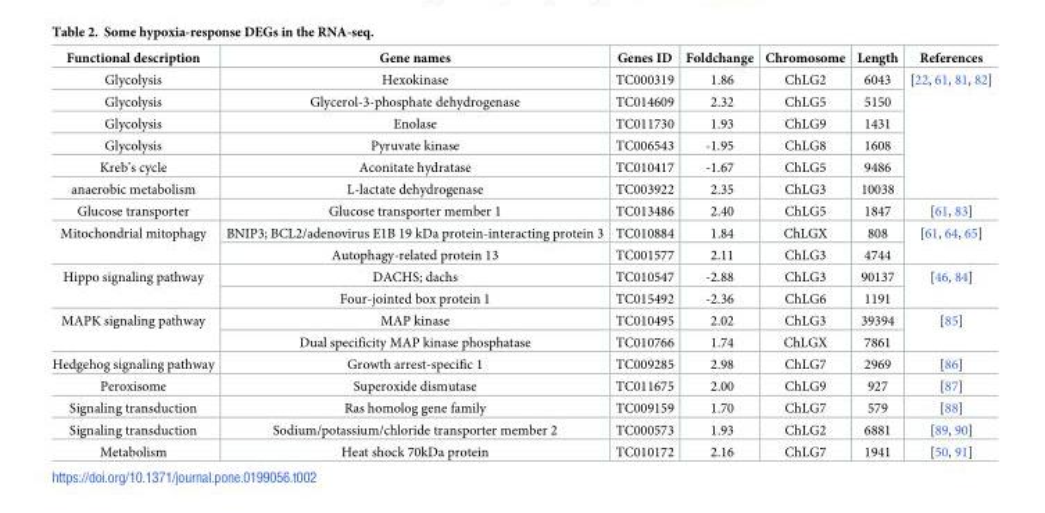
<table><thead><tr><td>Functional description</td><td>Gene names</td><td>Genes ID</td><td>Foldchange</td><td>Chromosome</td><td>Length</td><td>References</td></tr></thead><tbody><tr><td>Glycolysis</td><td>Hexokinase</td><td>TC000319</td><td>1.86</td><td>ChLG2</td><td>6043</td><td rowspan="6">[22, 61, 81, 82]</td></tr><tr><td>Glycolysis</td><td>Glycerol-3-phosphate dehydrogenase</td><td>TC014609</td><td>2.32</td><td>ChLG5</td><td>5150</td></tr><tr><td>Glycolysis</td><td>Enolase</td><td>TC011730</td><td>1.93</td><td>ChLG9</td><td>1431</td></tr><tr><td>Glycolysis</td><td>Pyruvate kinase</td><td>TC006543</td><td>-1.95</td><td>ChLG8</td><td>1608</td></tr><tr><td>Kreb’s cycle</td><td>Aconitate hydratase</td><td>TC010417</td><td>-1.67</td><td>ChLG5</td><td>9486</td></tr><tr><td>anaerobic metabolism</td><td>L-lactate dehydrogenase</td><td>TC003922</td><td>2.35</td><td>ChLG3</td><td>10038</td></tr><tr><td>Glucose transporter</td><td>Glucose transporter member 1</td><td>TC013486</td><td>2.40</td><td>ChLG5</td><td>1847</td><td>[61, 83]</td></tr><tr><td rowspan="2">Mitochondrial mitophagy</td><td>BNIP3; BCL2/adenovirus E1B 19 kDa protein-interacting protein 3</td><td>TC010884</td><td>1.84</td><td>ChLGX</td><td>808</td><td rowspan="2">[61, 64, 65]</td></tr><tr><td>Autophagy-related protein 13</td><td>TC001577</td><td>2.11</td><td>ChLG3</td><td>4744</td></tr><tr><td rowspan="2">Hippo signaling pathway</td><td>DACHS; dachs</td><td>TC010547</td><td>-2.88</td><td>ChLG3</td><td>90137</td><td rowspan="2">[46, 84]</td></tr><tr><td>Four-jointed box protein 1</td><td>TC015492</td><td>-2.36</td><td>ChLG6</td><td>1191</td></tr><tr><td rowspan="2">MAPK signaling pathway</td><td>MAP kinase</td><td>TC010495</td><td>2.02</td><td>ChLG3</td><td>39394</td><td rowspan="2">[85]</td></tr><tr><td>Dual specificity MAP kinase phosphatase</td><td>TC010766</td><td>1.74</td><td>ChLGX</td><td>7861</td></tr><tr><td>Hedgehog signaling pathway</td><td>Growth arrest-specific 1</td><td>TC009285</td><td>2.98</td><td>ChLG7</td><td>2969</td><td>[86]</td></tr><tr><td>Peroxisome</td><td>Superoxide dismutase</td><td>TC011675</td><td>2.00</td><td>ChLG9</td><td>927</td><td>[87]</td></tr><tr><td>Signaling transduction</td><td>Ras homolog gene family</td><td>TC009159</td><td>1.70</td><td>ChLG7</td><td>579</td><td>[88]</td></tr><tr><td>Signaling transduction</td><td>Sodium/potassium/chloride transporter member 2</td><td>TC000573</td><td>1.93</td><td>ChLG2</td><td>6881</td><td>[89, 90]</td></tr><tr><td>Metabolism</td><td>Heat shock 70kDa protein</td><td>TC010172</td><td>2.16</td><td>ChLG7</td><td>1941</td><td>[50, 91]</td></tr></tbody></table>